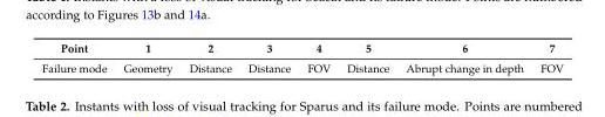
<table><thead><tr><td>Point</td><td>1</td><td>2</td><td>3</td><td>4</td><td>5</td><td>6</td><td>7</td></tr></thead><tbody><tr><td>Failure mode</td><td>Geometry</td><td>Distance</td><td>Distance</td><td>FOV</td><td>Distance</td><td>Abrupt change in depth</td><td>FOV</td></tr></tbody></table>